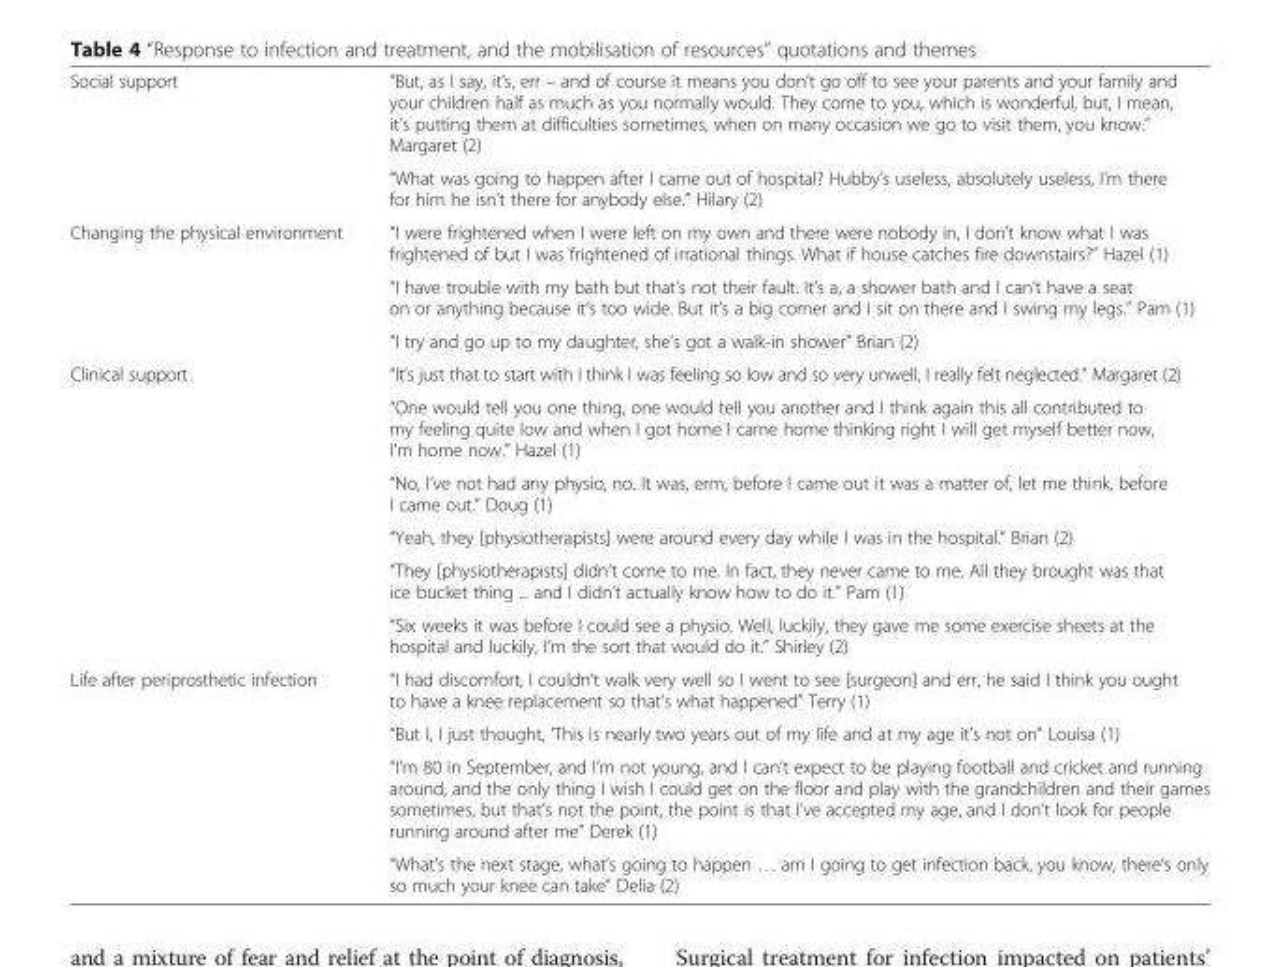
<table><tbody><tr><td rowspan="2">Social support</td><td>“But, as I say, it’s, err – and of course it means you don’t go off to see your parents and your family and your children half as much as you normally would. They come to you, which is wonderful, but, I mean, it’s putting them at difficulties sometimes, when on many occasion we go to visit them, you know.” Margaret (2)</td></tr><tr><td>“What was going to happen after I came out of hospital? Hubby’s useless, absolutely useless, I’m there for him he isn’t there for anybody else.” Hilary (2)</td></tr><tr><td rowspan="3">Changing the physical environment</td><td>“I were frightened when I were left on my own and there were nobody in, I don’t know what I was frightened of but I was frightened of irrational things. What if house catches fire downstairs?” Hazel (1)</td></tr><tr><td>“I have trouble with my bath but that’s not their fault. It’s a, a shower bath and I can’t have a seat on or anything because it’s too wide. But it’s a big corner and I sit on there and I swing my legs.” Pam (1)</td></tr><tr><td>“I try and go up to my daughter, she’s got a walk-in shower” Brian (2)</td></tr><tr><td rowspan="6">Clinical support</td><td>“It’s just that to start with I think I was feeling so low and so very unwell, I really felt neglected.” Margaret (2)</td></tr><tr><td>“One would tell you one thing, one would tell you another and I think again this all contributed to my feeling quite low and when I got home I came home thinking right I will get myself better now, I’m home now.” Hazel (1)</td></tr><tr><td>“No, I’ve not had any physio, no. It was, erm, before I came out it was a matter of, let me think, before I came out.” Doug (1)</td></tr><tr><td>“Yeah, they [physiotherapists] were around every day while I was in the hospital.” Brian (2)</td></tr><tr><td>“They [physiotherapists] didn’t come to me. In fact, they never came to me. All they brought was that ice bucket thing ... and I didn’t actually know how to do it.” Pam (1)</td></tr><tr><td>“Six weeks it was before I could see a physio. Well, luckily, they gave me some exercise sheets at the hospital and luckily, I’m the sort that would do it.” Shirley (2)</td></tr><tr><td rowspan="4">Life after periprosthetic infection</td><td>“I had discomfort, I couldn’t walk very well so I went to see [surgeon] and err, he said I think you ought to have a knee replacement so that’s what happened” Terry (1)</td></tr><tr><td>“But I, I just thought, ‘This is nearly two years out of my life and at my age it’s not on” Louisa (1)</td></tr><tr><td>“I’m 80 in September, and I’m not young, and I can’t expect to be playing football and cricket and running around, and the only thing I wish I could get on the floor and play with the grandchildren and their games sometimes, but that’s not the point, the point is that I’ve accepted my age, and I don’t look for people running around after me” Derek (1)</td></tr><tr><td>“What’s the next stage, what’s going to happen … am I going to get infection back, you know, there’s only so much your knee can take” Delia (2)</td></tr></tbody></table>